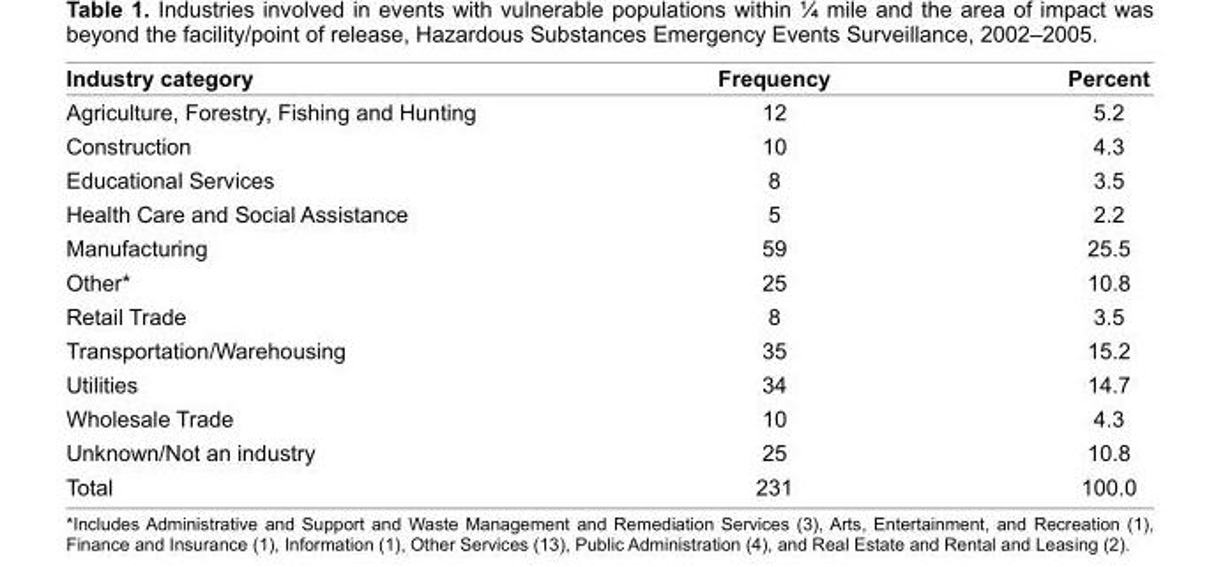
<table><thead><tr><td>Industry category</td><td>Frequency</td><td>Percent</td></tr></thead><tbody><tr><td>Agriculture, Forestry, Fishing and Hunting</td><td>12</td><td>5.2</td></tr><tr><td>Construction</td><td>10</td><td>4.3</td></tr><tr><td>Educational Services</td><td>8</td><td>3.5</td></tr><tr><td>Health Care and Social Assistance</td><td>5</td><td>2.2</td></tr><tr><td>Manufacturing</td><td>59</td><td>25.5</td></tr><tr><td>Other*</td><td>25</td><td>10.8</td></tr><tr><td>Retail Trade</td><td>8</td><td>3.5</td></tr><tr><td>Transportation/Warehousing</td><td>35</td><td>15.2</td></tr><tr><td>Utilities</td><td>34</td><td>14.7</td></tr><tr><td>Wholesale Trade</td><td>10</td><td>4.3</td></tr><tr><td>Unknown/Not an industry</td><td>25</td><td>10.8</td></tr><tr><td>Total</td><td>231</td><td>100.0</td></tr></tbody></table>